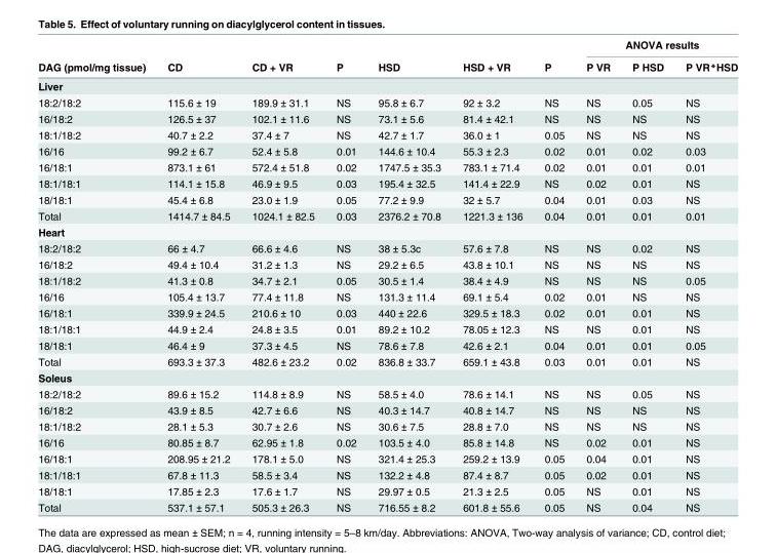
<table><thead><tr><td rowspan="2">DAG (pmol/mg tissue)</td><td rowspan="2">CD</td><td rowspan="2">CD + VR</td><td rowspan="2">P</td><td rowspan="2">HSD</td><td rowspan="2">HSD + VR</td><td rowspan="2">P</td><td colspan="3">ANOVA results</td></tr><tr><td>P VR</td><td>P HSD</td><td>P VR*HSD</td></tr></thead><tbody><tr><td colspan="10">Liver</td></tr><tr><td>18:2/18:2</td><td>115.6 ± 19</td><td>189.9 ± 31.1</td><td>NS</td><td>95.8 ± 6.7</td><td>92 ± 3.2</td><td>NS</td><td>NS</td><td>0.05</td><td>NS</td></tr><tr><td>16/18:2</td><td>126.5 ± 37</td><td>102.1 ± 11.6</td><td>NS</td><td>73.1 ± 5.6</td><td>81.4 ± 42.1</td><td>NS</td><td>NS</td><td>NS</td><td>NS</td></tr><tr><td>18:1/18:2</td><td>40.7 ± 2.2</td><td>37.4 ± 7</td><td>NS</td><td>42.7 ± 1.7</td><td>36.0 ± 1</td><td>0.05</td><td>NS</td><td>NS</td><td>NS</td></tr><tr><td>16/16</td><td>99.2 ± 6.7</td><td>52.4 ± 5.8</td><td>0.01</td><td>144.6 ± 10.4</td><td>55.3 ± 2.3</td><td>0.02</td><td>0.01</td><td>0.02</td><td>0.03</td></tr><tr><td>16/18:1</td><td>873.1 ± 61</td><td>572.4 ± 51.8</td><td>0.02</td><td>1747.5 ± 35.3</td><td>783.1 ± 71.4</td><td>0.02</td><td>0.01</td><td>0.01</td><td>0.01</td></tr><tr><td>18:1/18:1</td><td>114.1 ± 15.8</td><td>46.9 ± 9.5</td><td>0.03</td><td>195.4 ± 32.5</td><td>141.4 ± 22.9</td><td>NS</td><td>0.02</td><td>0.01</td><td>NS</td></tr><tr><td>18/18:1</td><td>45.4 ± 6.8</td><td>23.0 ± 1.9</td><td>0.05</td><td>77.2 ± 9.9</td><td>32 ± 5.7</td><td>0.04</td><td>0.01</td><td>0.03</td><td>NS</td></tr><tr><td>Total</td><td>1414.7 ± 84.5</td><td>1024.1 ± 82.5</td><td>0.03</td><td>2376.2 ± 70.8</td><td>1221.3 ± 136</td><td>0.04</td><td>0.01</td><td>0.01</td><td>0.01</td></tr><tr><td colspan="10">Heart</td></tr><tr><td>18:2/18:2</td><td>66 ± 4.7</td><td>66.6 ± 4.6</td><td>NS</td><td>38 ± 5.3c</td><td>57.6 ± 7.8</td><td>NS</td><td>NS</td><td>0.02</td><td>NS</td></tr><tr><td>16/18:2</td><td>49.4 ± 10.4</td><td>31.2 ± 1.3</td><td>NS</td><td>29.2 ± 6.5</td><td>43.8 ± 10.1</td><td>NS</td><td>NS</td><td>NS</td><td>NS</td></tr><tr><td>18:1/18:2</td><td>41.3 ± 0.8</td><td>34.7 ± 2.1</td><td>0.05</td><td>30.5 ± 1.4</td><td>38.4 ± 4.9</td><td>NS</td><td>NS</td><td>NS</td><td>0.05</td></tr><tr><td>16/16</td><td>105.4 ± 13.7</td><td>77.4 ± 11.8</td><td>NS</td><td>131.3 ± 11.4</td><td>69.1 ± 5.4</td><td>0.02</td><td>0.01</td><td>NS</td><td>NS</td></tr><tr><td>16/18:1</td><td>339.9 ± 24.5</td><td>210.6 ± 10</td><td>0.03</td><td>440 ± 22.6</td><td>329.5 ± 18.3</td><td>0.02</td><td>0.01</td><td>0.01</td><td>NS</td></tr><tr><td>18:1/18:1</td><td>44.9 ± 2.4</td><td>24.8 ± 3.5</td><td>0.01</td><td>89.2 ± 10.2</td><td>78.05 ± 12.3</td><td>NS</td><td>NS</td><td>0.01</td><td>NS</td></tr><tr><td>18/18:1</td><td>46.4 ± 9</td><td>37.3 ± 4.5</td><td>NS</td><td>78.6 ± 7.8</td><td>42.6 ± 2.1</td><td>0.04</td><td>0.01</td><td>0.01</td><td>0.05</td></tr><tr><td>Total</td><td>693.3 ± 37.3</td><td>482.6 ± 23.2</td><td>0.02</td><td>836.8 ± 33.7</td><td>659.1 ± 43.8</td><td>0.03</td><td>0.01</td><td>0.01</td><td>NS</td></tr><tr><td colspan="10">Soleus</td></tr><tr><td>18:2/18:2</td><td>89.6 ± 15.2</td><td>114.8 ± 8.9</td><td>NS</td><td>58.5 ± 4.0</td><td>78.6 ± 14.1</td><td>NS</td><td>NS</td><td>0.05</td><td>NS</td></tr><tr><td>16/18:2</td><td>43.9 ± 8.5</td><td>42.7 ± 6.6</td><td>NS</td><td>40.3 ± 14.7</td><td>40.8 ± 14.7</td><td>NS</td><td>NS</td><td>NS</td><td>NS</td></tr><tr><td>18:1/18:2</td><td>28.1 ± 5.3</td><td>30.7 ± 2.6</td><td>NS</td><td>30.6 ± 7.5</td><td>28.8 ± 7.0</td><td>NS</td><td>NS</td><td>NS</td><td>NS</td></tr><tr><td>16/16</td><td>80.85 ± 8.7</td><td>62.95 ± 1.8</td><td>0.02</td><td>103.5 ± 4.0</td><td>85.8 ± 14.8</td><td>NS</td><td>0.02</td><td>0.01</td><td>NS</td></tr><tr><td>16/18:1</td><td>208.95 ± 21.2</td><td>178.1 ± 5.0</td><td>NS</td><td>321.4 ± 25.3</td><td>259.2 ± 13.9</td><td>0.05</td><td>0.04</td><td>0.01</td><td>NS</td></tr><tr><td>18:1/18:1</td><td>67.8 ± 11.3</td><td>58.5 ± 3.4</td><td>NS</td><td>132.2 ± 4.8</td><td>87.4 ± 8.7</td><td>0.05</td><td>0.02</td><td>0.01</td><td>NS</td></tr><tr><td>18/18:1</td><td>17.85 ± 2.3</td><td>17.6 ± 1.7</td><td>NS</td><td>29.97 ± 0.5</td><td>21.3 ± 2.5</td><td>0.05</td><td>NS</td><td>0.01</td><td>NS</td></tr><tr><td>Total</td><td>537.1 ± 57.1</td><td>505.3 ± 26.3</td><td>NS</td><td>716.55 ± 8.2</td><td>601.8 ± 55.6</td><td>0.05</td><td>NS</td><td>0.04</td><td>NS</td></tr></tbody></table>